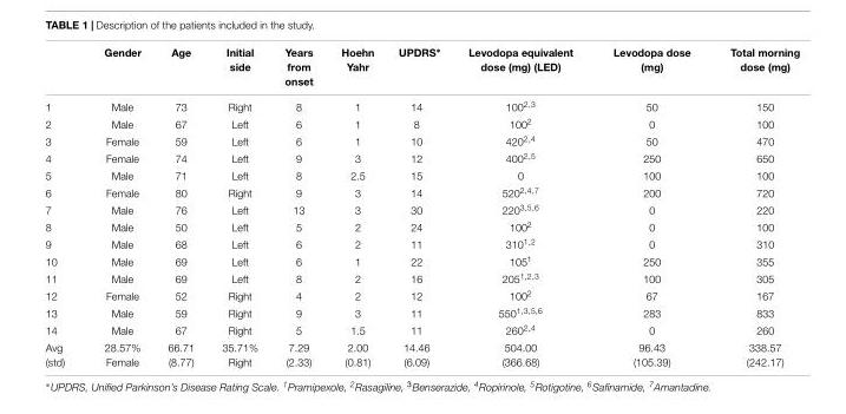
<table><thead><tr><td></td><td>Gender</td><td>Age</td><td>Initial side</td><td>Years from onset</td><td>Hoehn Yahr</td><td>UPDRS∗</td><td>Levodopa equivalent dose (mg) (LED)</td><td>Levodopa dose (mg)</td><td>Total morning dose (mg)</td></tr></thead><tbody><tr><td>1</td><td>Male</td><td>73</td><td>Right</td><td>8</td><td>1</td><td>14</td><td>100<sup>2,3</sup></td><td>50</td><td>150</td></tr><tr><td>2</td><td>Male</td><td>67</td><td>Left</td><td>6</td><td>1</td><td>8</td><td>100<sup>2</sup></td><td>0</td><td>100</td></tr><tr><td>3</td><td>Female</td><td>59</td><td>Left</td><td>6</td><td>1</td><td>10</td><td>420<sup>2,4</sup></td><td>50</td><td>470</td></tr><tr><td>4</td><td>Female</td><td>74</td><td>Left</td><td>9</td><td>3</td><td>12</td><td>400<sup>2,5</sup></td><td>250</td><td>650</td></tr><tr><td>5</td><td>Male</td><td>71</td><td>Left</td><td>8</td><td>2.5</td><td>15</td><td>0</td><td>100</td><td>100</td></tr><tr><td>6</td><td>Female</td><td>80</td><td>Right</td><td>9</td><td>3</td><td>14</td><td>520<sup>2,4,7</sup></td><td>200</td><td>720</td></tr><tr><td>7</td><td>Male</td><td>76</td><td>Left</td><td>13</td><td>3</td><td>30</td><td>220<sup>3,5,6</sup></td><td>0</td><td>220</td></tr><tr><td>8</td><td>Male</td><td>50</td><td>Left</td><td>5</td><td>2</td><td>24</td><td>100<sup>2</sup></td><td>0</td><td>100</td></tr><tr><td>9</td><td>Male</td><td>68</td><td>Left</td><td>6</td><td>2</td><td>11</td><td>310<sup>1,2</sup></td><td>0</td><td>310</td></tr><tr><td>10</td><td>Male</td><td>69</td><td>Left</td><td>6</td><td>1</td><td>22</td><td>105<sup>1</sup></td><td>250</td><td>355</td></tr><tr><td>11</td><td>Male</td><td>69</td><td>Left</td><td>8</td><td>2</td><td>16</td><td>205<sup>1,2,3</sup></td><td>100</td><td>305</td></tr><tr><td>12</td><td>Female</td><td>52</td><td>Right</td><td>4</td><td>2</td><td>12</td><td>100<sup>2</sup></td><td>67</td><td>167</td></tr><tr><td>13</td><td>Male</td><td>59</td><td>Right</td><td>9</td><td>3</td><td>11</td><td>550<sup>1,3,5,6</sup></td><td>283</td><td>833</td></tr><tr><td>14</td><td>Male</td><td>67</td><td>Right</td><td>5</td><td>1.5</td><td>11</td><td>260<sup>2,4</sup></td><td>0</td><td>260</td></tr><tr><td>Avg (std)</td><td>28.57% Female</td><td>66.71 (8.77)</td><td>35.71% Right</td><td>7.29 (2.33)</td><td>2.00 (0.81)</td><td>14.46 (6.09)</td><td>504.00 (366.68)</td><td>96.43 (105.39)</td><td>338.57 (242.17)</td></tr></tbody></table>